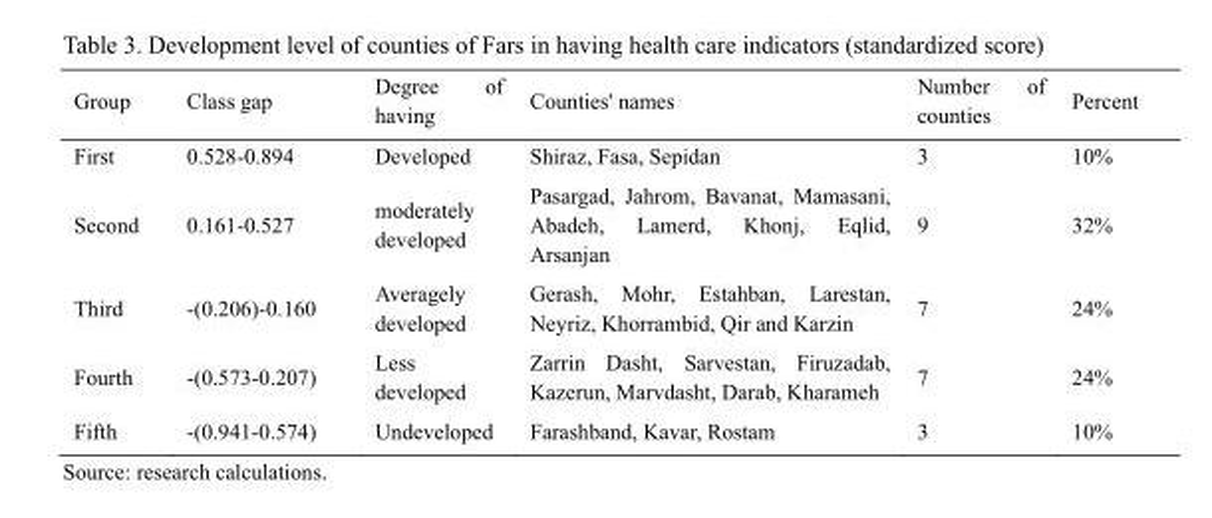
<table><thead><tr><td>Group</td><td>Class gap</td><td>Degree of having</td><td>Counties&#x27; names</td><td>Number of counties</td><td>Percent</td></tr></thead><tbody><tr><td>First</td><td>0.528-0.894</td><td>Developed</td><td>Shiraz, Fasa, Sepidan</td><td>3</td><td>10%</td></tr><tr><td>Second</td><td>0.161-0.527</td><td>moderately developed</td><td>Pasargad, Jahrom, Bavanat, Mamasani, Abadeh, Lamerd, Khonj, Eqlid, Arsanjan</td><td>9</td><td>32%</td></tr><tr><td>Third</td><td>-(0.206)-0.160</td><td>Averagely developed</td><td>Gerash, Mohr, Estahban, Larestan, Neyriz, Khorrambid, Qir and Karzin</td><td>7</td><td>24%</td></tr><tr><td>Fourth</td><td>-(0.573-0.207)</td><td>Less developed</td><td>Zarrin Dasht, Sarvestan, Firuzadab, Kazerun, Marvdasht, Darab, Kharameh</td><td>7</td><td>24%</td></tr><tr><td>Fifth</td><td>-(0.941-0.574)</td><td>Undeveloped</td><td>Farashband, Kavar, Rostam</td><td>3</td><td>10%</td></tr></tbody></table>